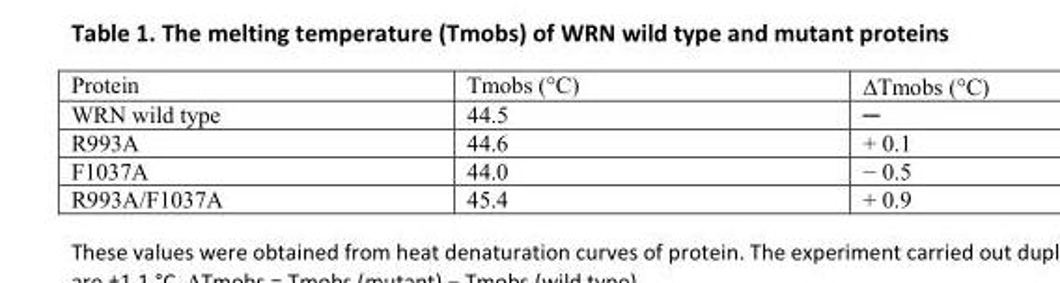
<table><thead><tr><td>Protein</td><td>Tmobs (°C)</td><td>ΔTmobs (°C)</td></tr></thead><tbody><tr><td>WRN wild type</td><td>44.5</td><td>─</td></tr><tr><td>R993A</td><td>44.6</td><td>+ 0.1</td></tr><tr><td>F1037A</td><td>44.0</td><td>− 0.5</td></tr><tr><td>R993A/F1037A</td><td>45.4</td><td>+ 0.9</td></tr></tbody></table>